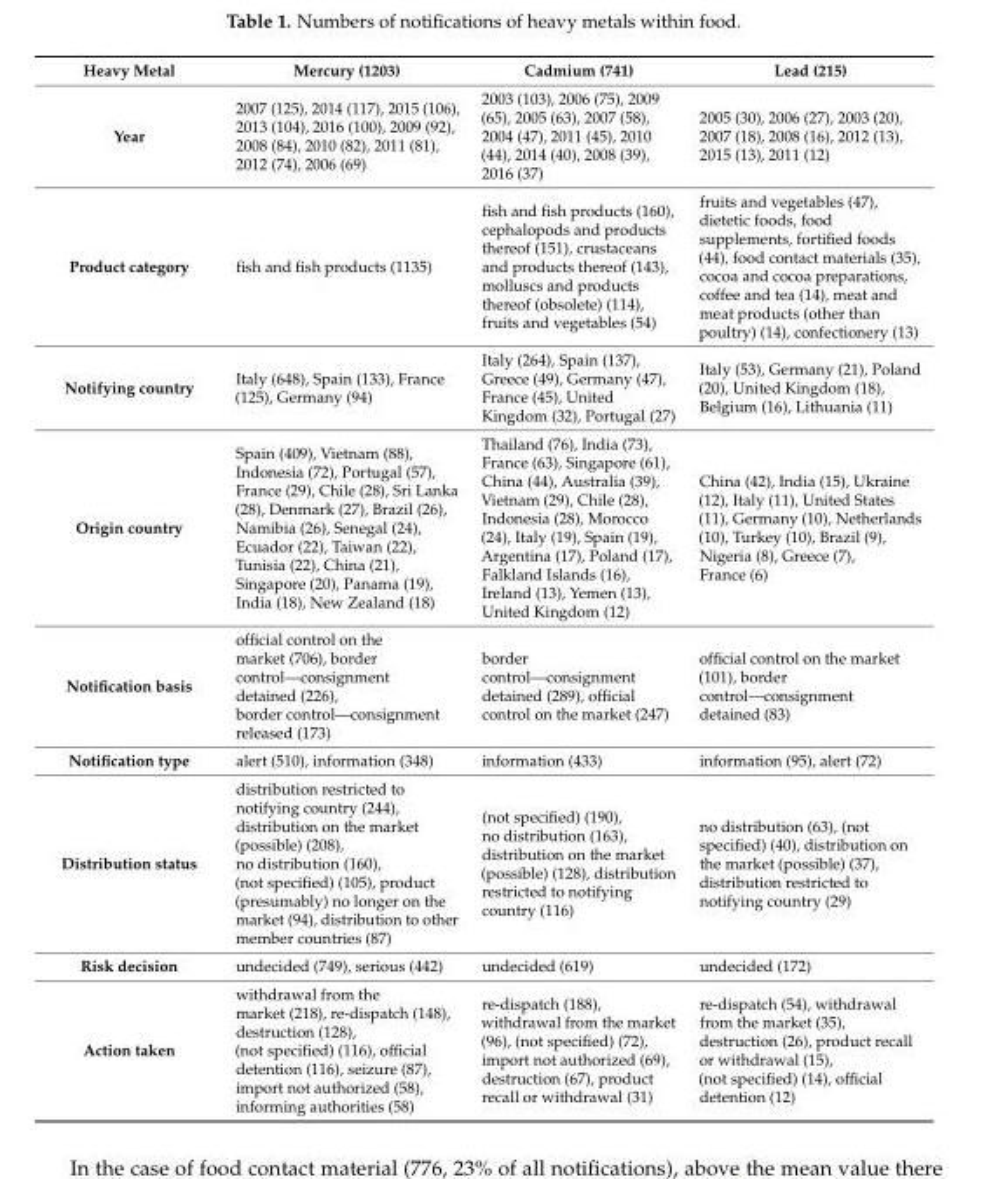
<table><thead><tr><td>Heavy Metal</td><td>Mercury (1203)</td><td>Cadmium (741)</td><td>Lead (215)</td></tr></thead><tbody><tr><td>Year</td><td>2007 (125), 2014 (117), 2015 (106), 2013 (104), 2016 (100), 2009 (92), 2008 (84), 2010 (82), 2011 (81), 2012 (74), 2006 (69)</td><td>2003 (103), 2006 (75), 2009 (65), 2005 (63), 2007 (58), 2004 (47), 2011 (45), 2010 (44), 2014 (40), 2008 (39), 2016 (37)</td><td>2005 (30), 2006 (27), 2003 (20), 2007 (18), 2008 (16), 2012 (13), 2015 (13), 2011 (12)</td></tr><tr><td>Product category</td><td>fish and fish products (1135)</td><td>fish and fish products (160), cephalopods and products thereof (151), crustaceans and products thereof (143), molluscs and products thereof (obsolete) (114), fruits and vegetables (54)</td><td>fruits and vegetables (47), dietetic foods, food supplements, fortified foods (44), food contact materials (35), cocoa and cocoa preparations, coffee and tea (14), meat and meat products (other than poultry) (14), confectionery (13)</td></tr><tr><td>Notifying country</td><td>Italy (648), Spain (133), France (125), Germany (94)</td><td>Italy (264), Spain (137), Greece (49), Germany (47), France (45), United Kingdom (32), Portugal (27)</td><td>Italy (53), Germany (21), Poland (20), United Kingdom (18), Belgium (16), Lithuania (11)</td></tr><tr><td>Origin country</td><td>Spain (409), Vietnam (88), Indonesia (72), Portugal (57), France (29), Chile (28), Sri Lanka (28), Denmark (27), Brazil (26), Namibia (26), Senegal (24), Ecuador (22), Taiwan (22), Tunisia (22), China (21), Singapore (20), Panama (19), India (18), New Zealand (18)</td><td>Thailand (76), India (73), France (63), Singapore (61), China (44), Australia (39), Vietnam (29), Chile (28), Indonesia (28), Morocco (24), Italy (19), Spain (19), Argentina (17), Poland (17), Falkland Islands (16), Ireland (13), Yemen (13), United Kingdom (12)</td><td>China (42), India (15), Ukraine (12), Italy (11), United States (11), Germany (10), Netherlands (10), Turkey (10), Brazil (9), Nigeria (8), Greece (7), France (6)</td></tr><tr><td>Notification basis</td><td>official control on the market (706), border control—consignment detained (226), border control—consignment released (173)</td><td>border control—consignment detained (289), official control on the market (247)</td><td>official control on the market (101), border control—consignment detained (83)</td></tr><tr><td>Notification type</td><td>alert (510), information (348)</td><td>information (433)</td><td>information (95), alert (72)</td></tr><tr><td>Distribution status</td><td>distribution restricted to notifying country (244), distribution on the market (possible) (208), no distribution (160), (not specified) (105), product (presumably) no longer on the market (94), distribution to other member countries (87)</td><td>(not specified) (190), no distribution (163), distribution on the market (possible) (128), distribution restricted to notifying country (116)</td><td>no distribution (63), (not specified) (40), distribution on the market (possible) (37), distribution restricted to notifying country (29)</td></tr><tr><td>Risk decision</td><td>undecided (749), serious (442)</td><td>undecided (619)</td><td>undecided (172)</td></tr><tr><td>Action taken</td><td>withdrawal from the market (218), re-dispatch (148), destruction (128), (not specified) (116), official detention (116), seizure (87), import not authorized (58), informing authorities (58)</td><td>re-dispatch (188), withdrawal from the market (96), (not specified) (72), import not authorized (69), destruction (67), product recall or withdrawal (31)</td><td>re-dispatch (54), withdrawal from the market (35), destruction (26), product recall or withdrawal (15), (not specified) (14), official detention (12)</td></tr></tbody></table>